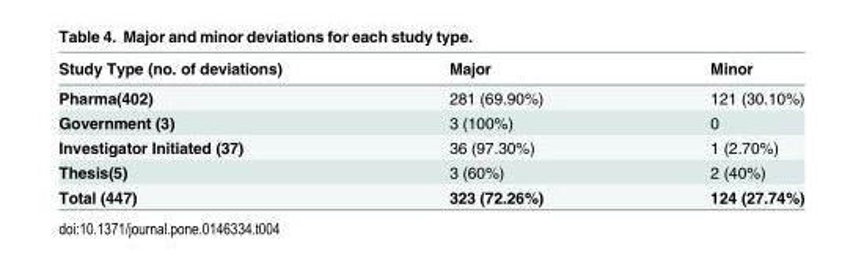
<table><thead><tr><td>Study Type (no. of deviations)</td><td>Major</td><td>Minor</td></tr></thead><tbody><tr><td>Pharma(402)</td><td>281 (69.90%)</td><td>121 (30.10%)</td></tr><tr><td>Government (3)</td><td>3 (100%)</td><td>0</td></tr><tr><td>Investigator Initiated (37)</td><td>36 (97.30%)</td><td>1 (2.70%)</td></tr><tr><td>Thesis(5)</td><td>3 (60%)</td><td>2 (40%)</td></tr><tr><td>Total (447)</td><td>323 (72.26%)</td><td>124 (27.74%)</td></tr></tbody></table>